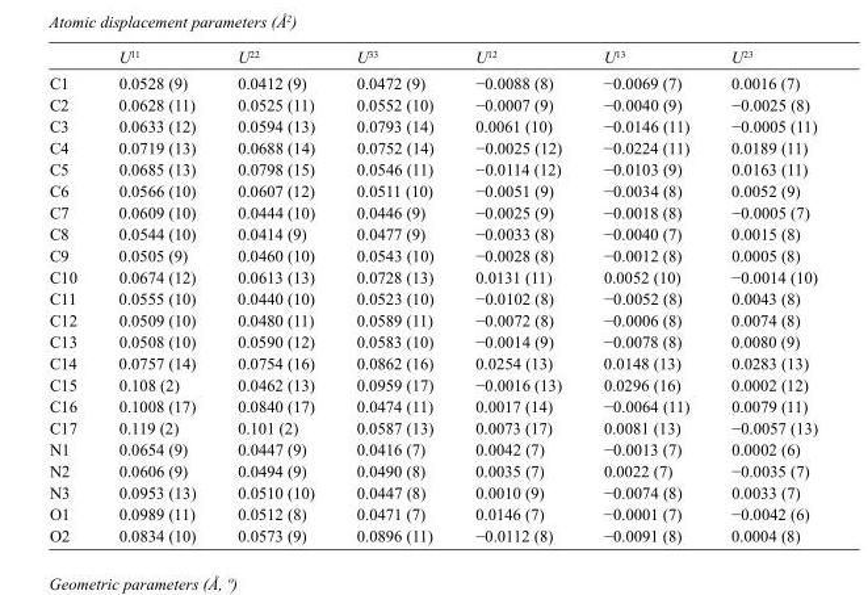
<table><thead><tr><td></td><td>U<sup>11</sup></td><td>U<sup>22</sup></td><td>U<sup>33</sup></td><td>U<sup>12</sup></td><td>U<sup>13</sup></td><td>U<sup>23</sup></td></tr></thead><tbody><tr><td>C1</td><td>0.0528 (9)</td><td>0.0412 (9)</td><td>0.0472 (9)</td><td>−0.0088 (8)</td><td>−0.0069 (7)</td><td>0.0016 (7)</td></tr><tr><td>C2</td><td>0.0628 (11)</td><td>0.0525 (11)</td><td>0.0552 (10)</td><td>−0.0007 (9)</td><td>−0.0040 (9)</td><td>−0.0025 (8)</td></tr><tr><td>C3</td><td>0.0633 (12)</td><td>0.0594 (13)</td><td>0.0793 (14)</td><td>0.0061 (10)</td><td>−0.0146 (11)</td><td>−0.0005 (11)</td></tr><tr><td>C4</td><td>0.0719 (13)</td><td>0.0688 (14)</td><td>0.0752 (14)</td><td>−0.0025 (12)</td><td>−0.0224 (11)</td><td>0.0189 (11)</td></tr><tr><td>C5</td><td>0.0685 (13)</td><td>0.0798 (15)</td><td>0.0546 (11)</td><td>−0.0114 (12)</td><td>−0.0103 (9)</td><td>0.0163 (11)</td></tr><tr><td>C6</td><td>0.0566 (10)</td><td>0.0607 (12)</td><td>0.0511 (10)</td><td>−0.0051 (9)</td><td>−0.0034 (8)</td><td>0.0052 (9)</td></tr><tr><td>C7</td><td>0.0609 (10)</td><td>0.0444 (10)</td><td>0.0446 (9)</td><td>−0.0025 (9)</td><td>−0.0018 (8)</td><td>−0.0005 (7)</td></tr><tr><td>C8</td><td>0.0544 (10)</td><td>0.0414 (9)</td><td>0.0477 (9)</td><td>−0.0033 (8)</td><td>−0.0040 (7)</td><td>0.0015 (8)</td></tr><tr><td>C9</td><td>0.0505 (9)</td><td>0.0460 (10)</td><td>0.0543 (10)</td><td>−0.0028 (8)</td><td>−0.0012 (8)</td><td>0.0005 (8)</td></tr><tr><td>C10</td><td>0.0674 (12)</td><td>0.0613 (13)</td><td>0.0728 (13)</td><td>0.0131 (11)</td><td>0.0052 (10)</td><td>−0.0014 (10)</td></tr><tr><td>C11</td><td>0.0555 (10)</td><td>0.0440 (10)</td><td>0.0523 (10)</td><td>−0.0102 (8)</td><td>−0.0052 (8)</td><td>0.0043 (8)</td></tr><tr><td>C12</td><td>0.0509 (10)</td><td>0.0480 (11)</td><td>0.0589 (11)</td><td>−0.0072 (8)</td><td>−0.0006 (8)</td><td>0.0074 (8)</td></tr><tr><td>C13</td><td>0.0508 (10)</td><td>0.0590 (12)</td><td>0.0583 (10)</td><td>−0.0014 (9)</td><td>−0.0078 (8)</td><td>0.0080 (9)</td></tr><tr><td>C14</td><td>0.0757 (14)</td><td>0.0754 (16)</td><td>0.0862 (16)</td><td>0.0254 (13)</td><td>0.0148 (13)</td><td>0.0283 (13)</td></tr><tr><td>C15</td><td>0.108 (2)</td><td>0.0462 (13)</td><td>0.0959 (17)</td><td>−0.0016 (13)</td><td>0.0296 (16)</td><td>0.0002 (12)</td></tr><tr><td>C16</td><td>0.1008 (17)</td><td>0.0840 (17)</td><td>0.0474 (11)</td><td>0.0017 (14)</td><td>−0.0064 (11)</td><td>0.0079 (11)</td></tr><tr><td>C17</td><td>0.119 (2)</td><td>0.101 (2)</td><td>0.0587 (13)</td><td>0.0073 (17)</td><td>0.0081 (13)</td><td>−0.0057 (13)</td></tr><tr><td>N1</td><td>0.0654 (9)</td><td>0.0447 (9)</td><td>0.0416 (7)</td><td>0.0042 (7)</td><td>−0.0013 (7)</td><td>0.0002 (6)</td></tr><tr><td>N2</td><td>0.0606 (9)</td><td>0.0494 (9)</td><td>0.0490 (8)</td><td>0.0035 (7)</td><td>0.0022 (7)</td><td>−0.0035 (7)</td></tr><tr><td>N3</td><td>0.0953 (13)</td><td>0.0510 (10)</td><td>0.0447 (8)</td><td>0.0010 (9)</td><td>−0.0074 (8)</td><td>0.0033 (7)</td></tr><tr><td>O1</td><td>0.0989 (11)</td><td>0.0512 (8)</td><td>0.0471 (7)</td><td>0.0146 (7)</td><td>−0.0001 (7)</td><td>−0.0042 (6)</td></tr><tr><td>O2</td><td>0.0834 (10)</td><td>0.0573 (9)</td><td>0.0896 (11)</td><td>−0.0112 (8)</td><td>−0.0091 (8)</td><td>0.0004 (8)</td></tr></tbody></table>